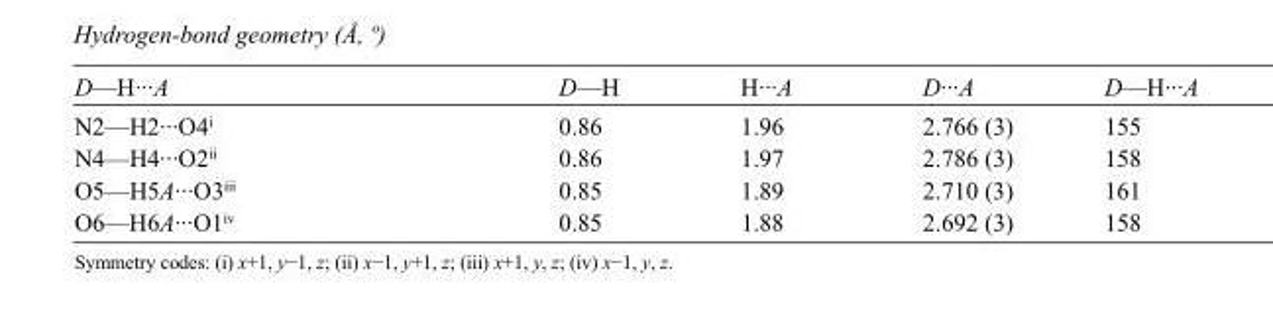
<table><tbody><tr><td>D—H···A</td><td>D—H</td><td>H···A</td><td>D···A</td><td>D—H···A</td></tr><tr><td>N2—H2···O4<sup>i</sup></td><td>0.86</td><td>1.96</td><td>2.766 (3)</td><td>155</td></tr><tr><td>N4—H4···O2<sup>ii</sup></td><td>0.86</td><td>1.97</td><td>2.786 (3)</td><td>158</td></tr><tr><td>O5—H5A···O3<sup>iii</sup></td><td>0.85</td><td>1.89</td><td>2.710 (3)</td><td>161</td></tr><tr><td>O6—H6A···O1<sup>iv</sup></td><td>0.85</td><td>1.88</td><td>2.692 (3)</td><td>158</td></tr></tbody></table>